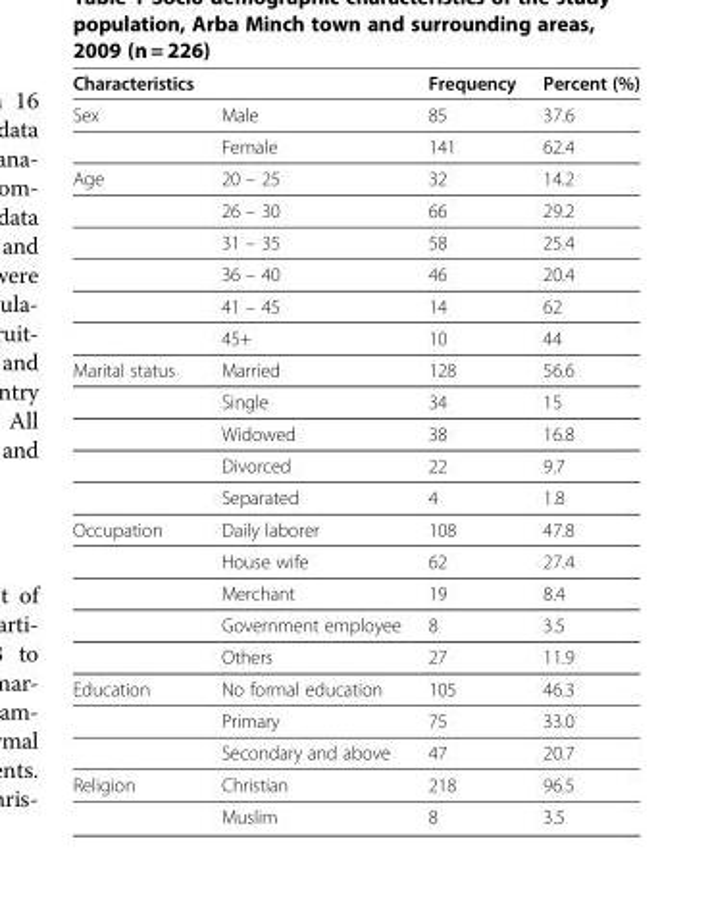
<table><thead><tr><td>Characteristics</td><td></td><td>Frequency</td><td>Percent (%)</td></tr></thead><tbody><tr><td rowspan="2">Sex</td><td>Male</td><td>85</td><td>37.6</td></tr><tr><td>Female</td><td>141</td><td>62.4</td></tr><tr><td rowspan="6">Age</td><td>20 – 25</td><td>32</td><td>14.2</td></tr><tr><td>26 – 30</td><td>66</td><td>29.2</td></tr><tr><td>31 – 35</td><td>58</td><td>25.4</td></tr><tr><td>36 – 40</td><td>46</td><td>20.4</td></tr><tr><td>41 – 45</td><td>14</td><td>62</td></tr><tr><td>45+</td><td>10</td><td>44</td></tr><tr><td rowspan="5">Marital status</td><td>Married</td><td>128</td><td>56.6</td></tr><tr><td>Single</td><td>34</td><td>15</td></tr><tr><td>Widowed</td><td>38</td><td>16.8</td></tr><tr><td>Divorced</td><td>22</td><td>9.7</td></tr><tr><td>Separated</td><td>4</td><td>1.8</td></tr><tr><td rowspan="5">Occupation</td><td>Daily laborer</td><td>108</td><td>47.8</td></tr><tr><td>House wife</td><td>62</td><td>27.4</td></tr><tr><td>Merchant</td><td>19</td><td>8.4</td></tr><tr><td>Government employee</td><td>8</td><td>3.5</td></tr><tr><td>Others</td><td>27</td><td>11.9</td></tr><tr><td rowspan="3">Education</td><td>No formal education</td><td>105</td><td>46.3</td></tr><tr><td>Primary</td><td>75</td><td>33.0</td></tr><tr><td>Secondary and above</td><td>47</td><td>20.7</td></tr><tr><td rowspan="2">Religion</td><td>Christian</td><td>218</td><td>96.5</td></tr><tr><td>Muslim</td><td>8</td><td>3.5</td></tr></tbody></table>